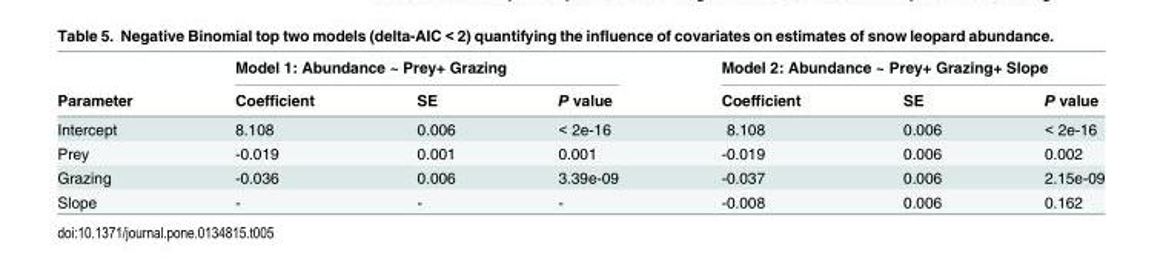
<table><thead><tr><td rowspan="2">Parameter</td><td colspan="3">Model 1: Abundance ~ Prey+ Grazing</td><td colspan="3">Model 2: Abundance ~ Prey+ Grazing+ Slope</td></tr><tr><td>Coefficient</td><td>SE</td><td>P value</td><td>Coefficient</td><td>SE</td><td>P value</td></tr></thead><tbody><tr><td>Intercept</td><td>8.108</td><td>0.006</td><td>&lt; 2e-16</td><td>8.108</td><td>0.006</td><td>&lt; 2e-16</td></tr><tr><td>Prey</td><td>-0.019</td><td>0.001</td><td>0.001</td><td>-0.019</td><td>0.006</td><td>0.002</td></tr><tr><td>Grazing</td><td>-0.036</td><td>0.006</td><td>3.39e-09</td><td>-0.037</td><td>0.006</td><td>2.15e-09</td></tr><tr><td>Slope</td><td>-</td><td>-</td><td>-</td><td>-0.008</td><td>0.006</td><td>0.162</td></tr></tbody></table>